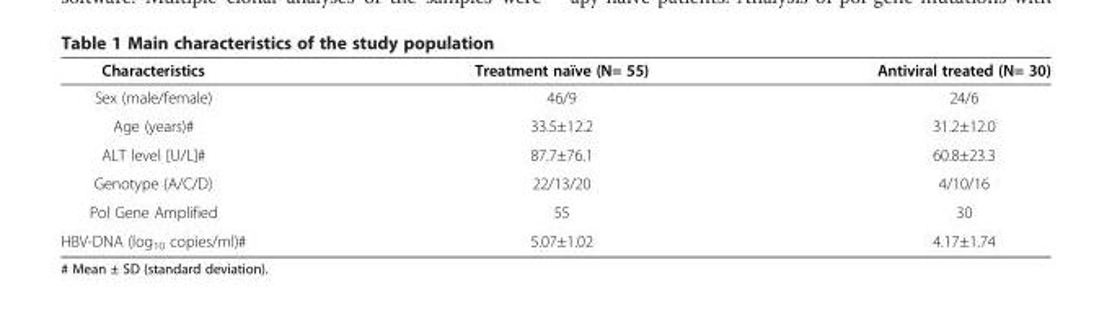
<table><thead><tr><td>Characteristics</td><td>Treatment naïve (N= 55)</td><td>Antiviral treated (N= 30)</td></tr></thead><tbody><tr><td>Sex (male/female)</td><td>46/9</td><td>24/6</td></tr><tr><td>Age (years)#</td><td>33.5±12.2</td><td>31.2±12.0</td></tr><tr><td>ALT level [U/L]#</td><td>87.7±76.1</td><td>60.8±23.3</td></tr><tr><td>Genotype (A/C/D)</td><td>22/13/20</td><td>4/10/16</td></tr><tr><td>Pol Gene Amplified</td><td>55</td><td>30</td></tr><tr><td>HBV-DNA (log<sub>10</sub> copies/ml)#</td><td>5.07±1.02</td><td>4.17±1.74</td></tr></tbody></table>